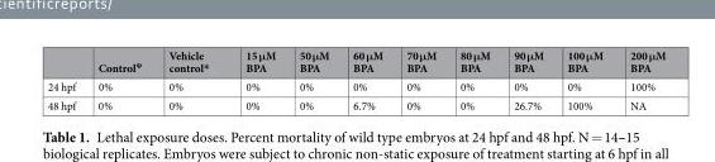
<table><thead><tr><td></td><td>Control<sup>Ψ</sup></td><td>Vehicle control*</td><td>15 μM BPA</td><td>50 μM BPA</td><td>60 μM BPA</td><td>70 μM BPA</td><td>80 μM BPA</td><td>90 μM BPA</td><td>100 μM BPA</td><td>200 μM BPA</td></tr></thead><tbody><tr><td>24 hpf</td><td>0%</td><td>0%</td><td>0%</td><td>0%</td><td>0%</td><td>0%</td><td>0%</td><td>0%</td><td>0%</td><td>100%</td></tr><tr><td>48 hpf</td><td>0%</td><td>0%</td><td>0%</td><td>0%</td><td>6.7%</td><td>0%</td><td>0%</td><td>26.7%</td><td>100%</td><td>NA</td></tr></tbody></table>